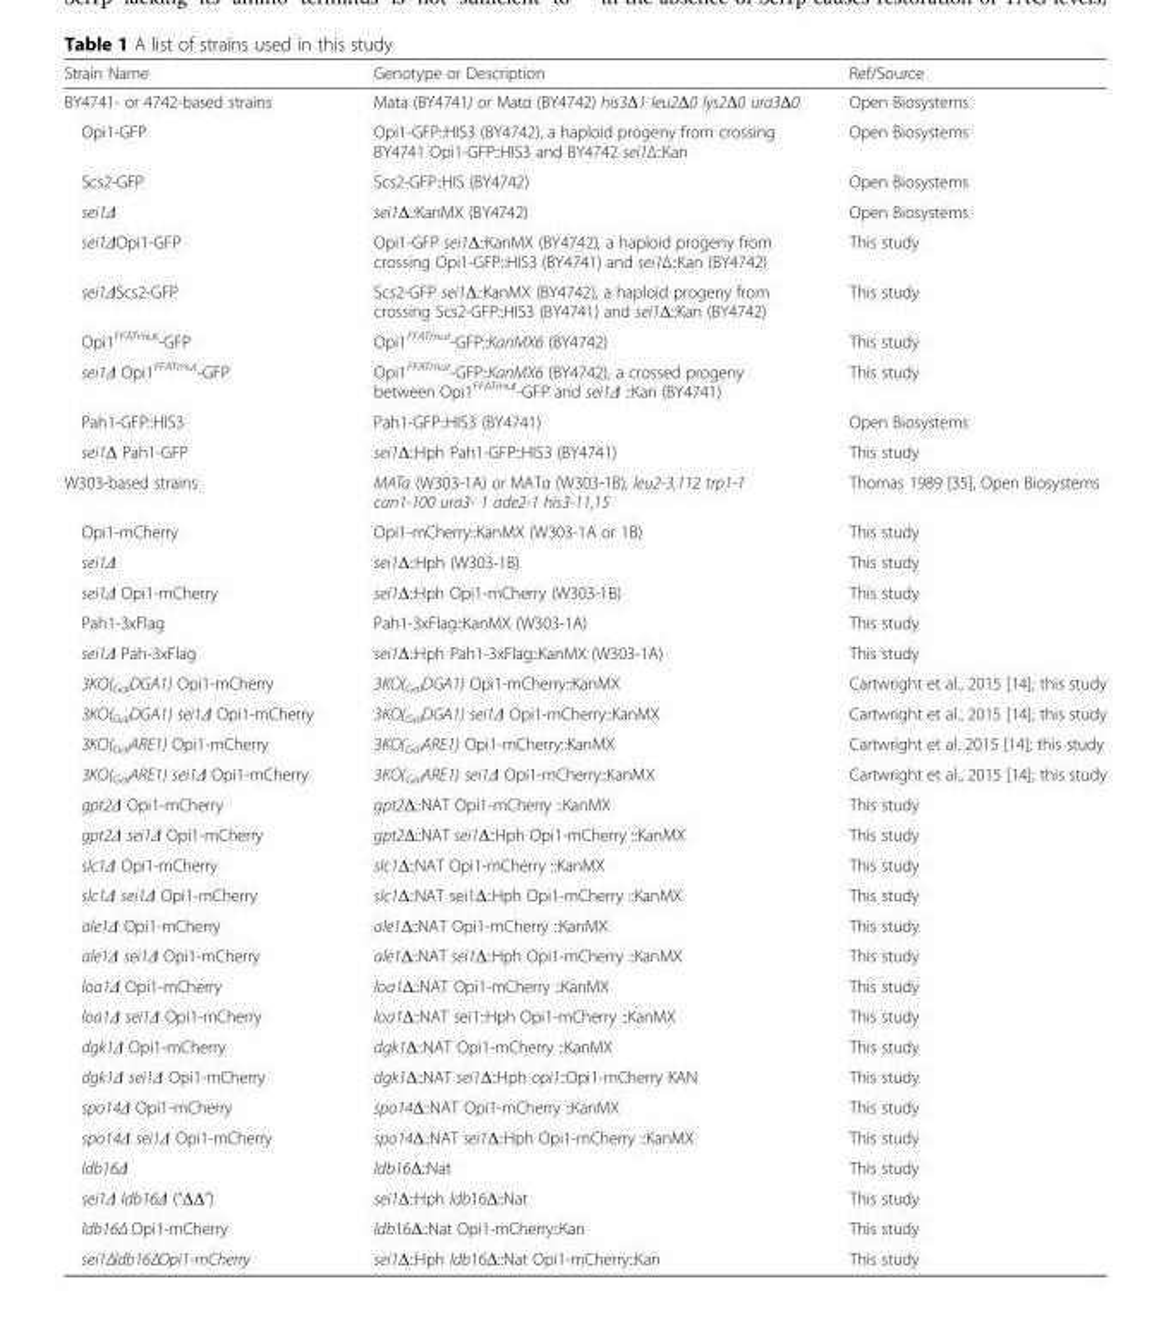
<table><thead><tr><td>Strain Name</td><td>Genotype or Description</td><td>Ref/Source</td></tr></thead><tbody><tr><td>BY4741- or 4742-based strains</td><td>Mata (BY4741) or Matα (BY4742) his3Δ1 leu2Δ0 lys2Δ0 ura3Δ0</td><td>Open Biosystems</td></tr><tr><td>Opi1-GFP</td><td>Opi1-GFP::HIS3 (BY4742), a haploid progeny from crossing BY4741 Opi1-GFP::HIS3 and BY4742 sei1Δ::Kan</td><td>Open Biosystems</td></tr><tr><td>Scs2-GFP</td><td>Scs2-GFP::HIS (BY4742)</td><td>Open Biosystems</td></tr><tr><td>sei1Δ</td><td>sei1Δ::KanMX (BY4742)</td><td>Open Biosystems</td></tr><tr><td>sei1ΔOpi1-GFP</td><td>Opi1-GFP sei1Δ::KanMX (BY4742), a haploid progeny from crossing Opi1-GFP::HIS3 (BY4741) and sei1Δ::Kan (BY4742)</td><td>This study</td></tr><tr><td>sei1ΔScs2-GFP</td><td>Scs2-GFP sei1Δ::KanMX (BY4742), a haploid progeny from crossing Scs2-GFP::HIS3 (BY4741) and sei1Δ::Kan (BY4742)</td><td>This study</td></tr><tr><td>Opi1<sup>FFATmut</sup>-GFP</td><td>Opi1<sup>FFATmut</sup>-GFP::KanMX6 (BY4742)</td><td>This study</td></tr><tr><td>sei1Δ Opi1<sup>FFATmut</sup>-GFP</td><td>Opi1<sup>FFATmut</sup>-GFP::KanMX6 (BY4742), a crossed progeny between Opi1<sup>FFATmut</sup>-GFP and sei1Δ ::Kan (BY4741)</td><td>This study</td></tr><tr><td>Pah1-GFP::HIS3</td><td>Pah1-GFP::HIS3 (BY4741)</td><td>Open Biosystems</td></tr><tr><td>sei1Δ Pah1-GFP</td><td>sei1Δ::Hph Pah1-GFP::HIS3 (BY4741)</td><td>This study</td></tr><tr><td>W303-based strains</td><td>MATa (W303-1A) or MATα (W303-1B), leu2-3,112 trp1-1 can1-100 ura3- 1 ade2-1 his3-11,15</td><td>Thomas 1989 [35], Open Biosystems</td></tr><tr><td>Opi1-mCherry</td><td>Opi1-mCherry::KanMX (W303-1A or 1B)</td><td>This study</td></tr><tr><td>sei1Δ</td><td>sei1Δ::Hph (W303-1B)</td><td>This study</td></tr><tr><td>sei1Δ Opi1-mCherry</td><td>sei1Δ::Hph Opi1-mCherry (W303-1B)</td><td>This study</td></tr><tr><td>Pah1-3xFlag</td><td>Pah1-3xFlag::KanMX (W303-1A)</td><td>This study</td></tr><tr><td>sei1Δ Pah-3xFlag</td><td>sei1Δ::Hph Pah1-3xFlag::KanMX (W303-1A)</td><td>This study</td></tr><tr><td>3KO(<sub>Gal</sub>DGA1) Opi1-mCherry</td><td>3KO(<sub>Gal</sub>DGA1) Opi1-mCherry::KanMX</td><td>Cartwright et al., 2015 [14]; this study</td></tr><tr><td>3KO(<sub>Gal</sub>DGA1) sei1Δ Opi1-mCherry</td><td>3KO(<sub>Gal</sub>DGA1) sei1Δ Opi1-mCherry::KanMX</td><td>Cartwright et al., 2015 [14]; this study</td></tr><tr><td>3KO(<sub>Gal</sub>ARE1) Opi1-mCherry</td><td>3KO(<sub>Gal</sub>ARE1) Opi1-mCherry::KanMX</td><td>Cartwright et al. 2015 [14]; this study</td></tr><tr><td>3KO(<sub>Gal</sub>ARE1) sei1Δ Opi1-mCherry</td><td>3KO(<sub>Gal</sub>ARE1) sei1Δ Opi1-mCherry::KanMX</td><td>Cartwright et al., 2015 [14]; this study</td></tr><tr><td>gpt2Δ Opi1-mCherry</td><td>gpt2Δ::NAT Opi1-mCherry ::KanMX</td><td>This study</td></tr><tr><td>gpt2Δ sei1Δ Opi1-mCherry</td><td>gpt2Δ::NAT sei1Δ::Hph Opi1-mCherry ::KanMX</td><td>This study</td></tr><tr><td>slc1Δ Opi1-mCherry</td><td>slc1Δ::NAT Opi1-mCherry ::KanMX</td><td>This study</td></tr><tr><td>slc1Δ sei1Δ Opi1-mCherry</td><td>slc1Δ::NAT sei1Δ::Hph Opi1-mCherry ::KanMX</td><td>This study</td></tr><tr><td>ale1Δ Opi1-mCherry</td><td>ale1Δ::NAT Opi1-mCherry ::KanMX</td><td>This study</td></tr><tr><td>ale1Δ sei1Δ Opi1-mCherry</td><td>ale1Δ::NAT sei1Δ::Hph Opi1-mCherry ::KanMX</td><td>This study</td></tr><tr><td>loa1Δ Opi1-mCherry</td><td>loa1Δ::NAT Opi1-mCherry ::KanMX</td><td>This study</td></tr><tr><td>loa1Δ sei1Δ Opi1-mCherry</td><td>loa1Δ::NAT sei1::Hph Opi1-mCherry ::KanMX</td><td>This study</td></tr><tr><td>dgk1Δ Opi1-mCherry</td><td>dgk1Δ::NAT Opi1-mCherry ::KanMX</td><td>This study</td></tr><tr><td>dgk1Δ sei1Δ Opi1-mCherry</td><td>dgk1Δ::NAT sei1Δ::Hph opi1::Opi1-mCherry KAN</td><td>This study</td></tr><tr><td>spo14Δ Opi1-mCherry</td><td>spo14Δ::NAT Opi1-mCherry ::KanMX</td><td>This study</td></tr><tr><td>spo14Δ sei1Δ Opi1-mCherry</td><td>spo14Δ::NAT sei1Δ::Hph Opi1-mCherry ::KanMX</td><td>This study</td></tr><tr><td>ldb16Δ</td><td>ldb16Δ::Nat</td><td>This study</td></tr><tr><td>sei1Δ ldb16Δ (”ΔΔ”)</td><td>sei1Δ::Hph ldb16Δ::Nat</td><td>This study</td></tr><tr><td>ldb16Δ Opi1-mCherry</td><td>ldb16Δ::Nat Opi1-mCherry::Kan</td><td>This study</td></tr><tr><td>sei1Δldb16ΔOpi1-mCherry</td><td>sei1Δ::Hph ldb16Δ::Nat Opi1-mCherry::Kan</td><td>This study</td></tr></tbody></table>